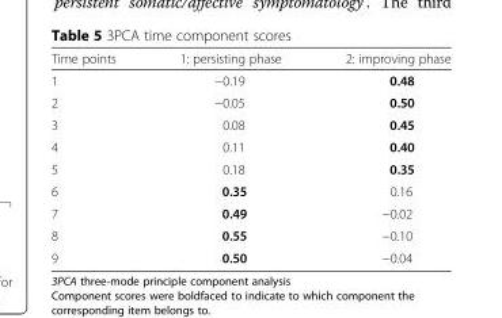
<table><thead><tr><td>Time points</td><td>1: persisting phase</td><td>2: improving phase</td></tr></thead><tbody><tr><td>1</td><td>−0.19</td><td>0.48</td></tr><tr><td>2</td><td>−0.05</td><td>0.50</td></tr><tr><td>3</td><td>0.08</td><td>0.45</td></tr><tr><td>4</td><td>0.11</td><td>0.40</td></tr><tr><td>5</td><td>0.18</td><td>0.35</td></tr><tr><td>6</td><td>0.35</td><td>0.16</td></tr><tr><td>7</td><td>0.49</td><td>−0.02</td></tr><tr><td>8</td><td>0.55</td><td>−0.10</td></tr><tr><td>9</td><td>0.50</td><td>−0.04</td></tr></tbody></table>